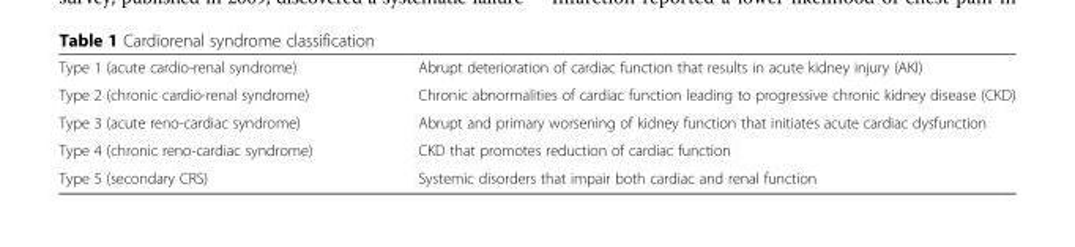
<table><tbody><tr><td>Type 1 (acute cardio-renal syndrome)</td><td>Abrupt deterioration of cardiac function that results in acute kidney injury (AKI)</td></tr><tr><td>Type 2 (chronic cardio-renal syndrome)</td><td>Chronic abnormalities of cardiac function leading to progressive chronic kidney disease (CKD)</td></tr><tr><td>Type 3 (acute reno-cardiac syndrome)</td><td>Abrupt and primary worsening of kidney function that initiates acute cardiac dysfunction</td></tr><tr><td>Type 4 (chronic reno-cardiac syndrome)</td><td>CKD that promotes reduction of cardiac function</td></tr><tr><td>Type 5 (secondary CRS)</td><td>Systemic disorders that impair both cardiac and renal function</td></tr></tbody></table>